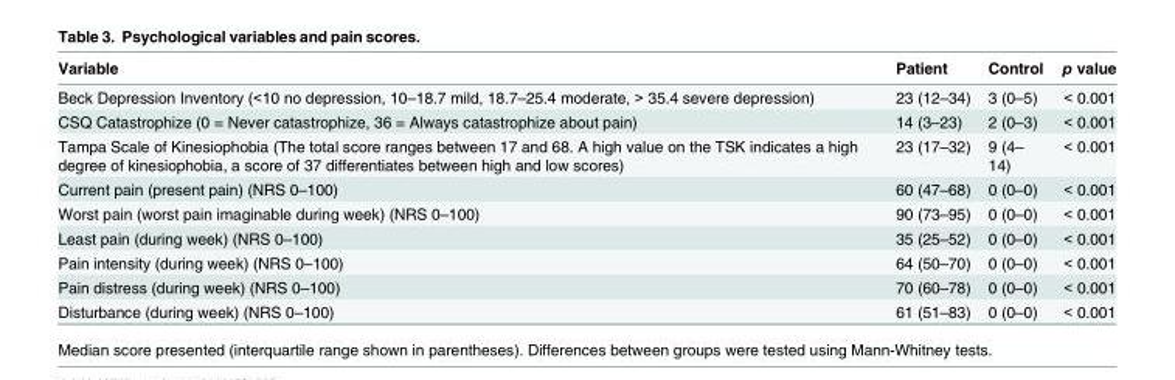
<table><thead><tr><td>Variable</td><td>Patient</td><td>Control</td><td>p value</td></tr></thead><tbody><tr><td>Beck Depression Inventory (&lt;10 no depression, 10–18.7 mild, 18.7–25.4 moderate, &gt; 35.4 severe depression)</td><td>23 (12–34)</td><td>3 (0–5)</td><td>&lt; 0.001</td></tr><tr><td>CSQ Catastrophize (0 = Never catastrophize, 36 = Always catastrophize about pain)</td><td>14 (3–23)</td><td>2 (0–3)</td><td>&lt; 0.001</td></tr><tr><td>Tampa Scale of Kinesiophobia (The total score ranges between 17 and 68. A high value on the TSK indicates a high degree of kinesiophobia, a score of 37 differentiates between high and low scores)</td><td>23 (17–32)</td><td>9 (4– 14)</td><td>&lt; 0.001</td></tr><tr><td>Current pain (present pain) (NRS 0–100)</td><td>60 (47–68)</td><td>0 (0–0)</td><td>&lt; 0.001</td></tr><tr><td>Worst pain (worst pain imaginable during week) (NRS 0–100)</td><td>90 (73–95)</td><td>0 (0–0)</td><td>&lt; 0.001</td></tr><tr><td>Least pain (during week) (NRS 0–100)</td><td>35 (25–52)</td><td>0 (0–0)</td><td>&lt; 0.001</td></tr><tr><td>Pain intensity (during week) (NRS 0–100)</td><td>64 (50–70)</td><td>0 (0–0)</td><td>&lt; 0.001</td></tr><tr><td>Pain distress (during week) (NRS 0–100)</td><td>70 (60–78)</td><td>0 (0–0)</td><td>&lt; 0.001</td></tr><tr><td>Disturbance (during week) (NRS 0–100)</td><td>61 (51–83)</td><td>0 (0–0)</td><td>&lt; 0.001</td></tr></tbody></table>